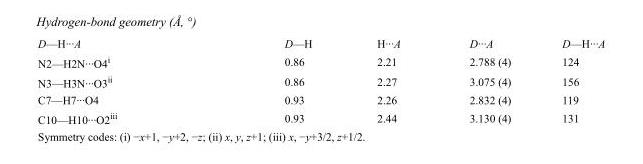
<table><tbody><tr><td>D—H···A</td><td>D—H</td><td>H···A</td><td>D···A</td><td>D—H···A</td></tr><tr><td>N2—H2N···O4<sup>i</sup></td><td>0.86</td><td>2.21</td><td>2.788 (4)</td><td>124</td></tr><tr><td>N3—H3N···O3<sup>ii</sup></td><td>0.86</td><td>2.27</td><td>3.075 (4)</td><td>156</td></tr><tr><td>C7—H7···O4</td><td>0.93</td><td>2.26</td><td>2.832 (4)</td><td>119</td></tr><tr><td>C10—H10···O2<sup>iii</sup></td><td>0.93</td><td>2.44</td><td>3.130 (4)</td><td>131</td></tr></tbody></table>